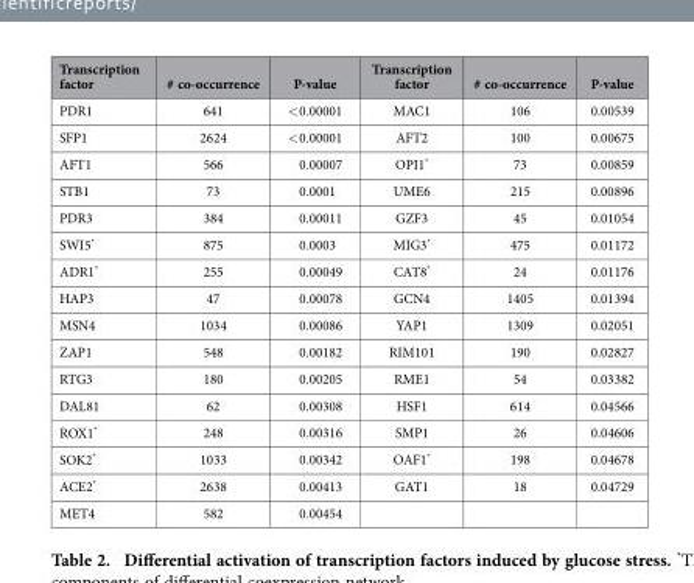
<table><thead><tr><td>Transcription factor</td><td># co-occurrence</td><td>P-value</td><td>Transcription factor</td><td># co-occurrence</td><td>P-value</td></tr></thead><tbody><tr><td>PDR1</td><td>641</td><td>&lt; 0.00001</td><td>MAC1</td><td>106</td><td>0.00539</td></tr><tr><td>SFP1</td><td>2624</td><td>&lt; 0.00001</td><td>AFT2</td><td>100</td><td>0.00675</td></tr><tr><td>AFT1</td><td>566</td><td>0.00007</td><td>OPI1*</td><td>73</td><td>0.00859</td></tr><tr><td>STB1</td><td>73</td><td>0.0001</td><td>UME6</td><td>215</td><td>0.00896</td></tr><tr><td>PDR3</td><td>384</td><td>0.00011</td><td>GZF3</td><td>45</td><td>0.01054</td></tr><tr><td>SWI5*</td><td>875</td><td>0.0003</td><td>MIG3*</td><td>475</td><td>0.01172</td></tr><tr><td>ADR1*</td><td>255</td><td>0.00049</td><td>CAT8*</td><td>24</td><td>0.01176</td></tr><tr><td>HAP3</td><td>47</td><td>0.00078</td><td>GCN4</td><td>1405</td><td>0.01394</td></tr><tr><td>MSN4</td><td>1034</td><td>0.00086</td><td>YAP1</td><td>1309</td><td>0.02051</td></tr><tr><td>ZAP1</td><td>548</td><td>0.00182</td><td>RIM101</td><td>190</td><td>0.02827</td></tr><tr><td>RTG3</td><td>180</td><td>0.00205</td><td>RME1</td><td>54</td><td>0.03382</td></tr><tr><td>DAL81</td><td>62</td><td>0.00308</td><td>HSF1</td><td>614</td><td>0.04566</td></tr><tr><td>ROX1*</td><td>248</td><td>0.00316</td><td>SMP1</td><td>26</td><td>0.04606</td></tr><tr><td>SOK2*</td><td>1033</td><td>0.00342</td><td>OAF1*</td><td>198</td><td>0.04678</td></tr><tr><td>ACE2*</td><td>2638</td><td>0.00413</td><td>GAT1</td><td>18</td><td>0.04729</td></tr><tr><td>MET4</td><td>582</td><td>0.00454</td><td></td><td></td><td></td></tr></tbody></table>